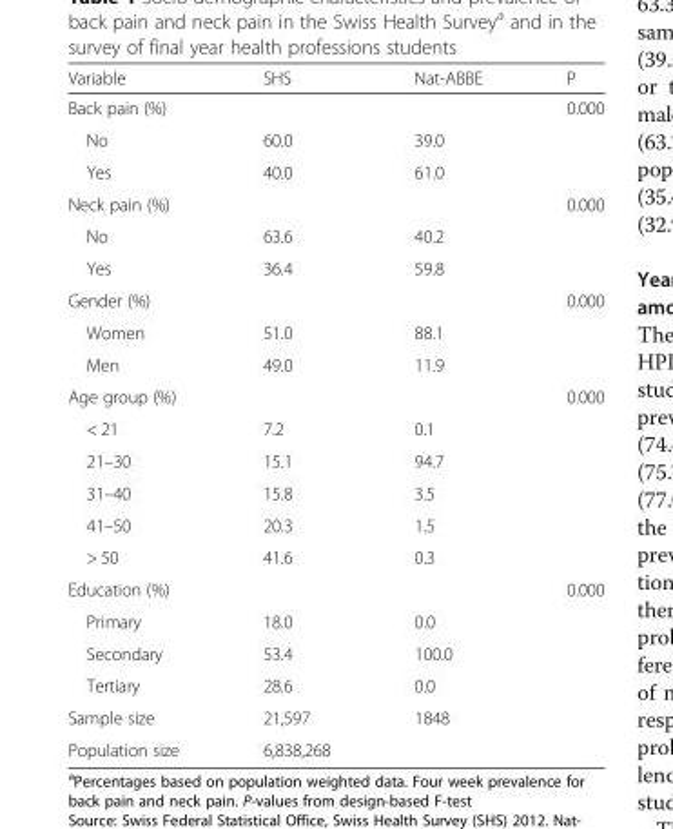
<table><thead><tr><td>Variable</td><td>SHS</td><td>Nat-ABBE</td><td>P</td></tr></thead><tbody><tr><td>Back pain (%)</td><td></td><td></td><td>0.000</td></tr><tr><td>No</td><td>60.0</td><td>39.0</td><td></td></tr><tr><td>Yes</td><td>40.0</td><td>61.0</td><td></td></tr><tr><td>Neck pain (%)</td><td></td><td></td><td>0.000</td></tr><tr><td>No</td><td>63.6</td><td>40.2</td><td></td></tr><tr><td>Yes</td><td>36.4</td><td>59.8</td><td></td></tr><tr><td>Gender (%)</td><td></td><td></td><td>0.000</td></tr><tr><td>Women</td><td>51.0</td><td>88.1</td><td></td></tr><tr><td>Men</td><td>49.0</td><td>11.9</td><td></td></tr><tr><td>Age group (%)</td><td></td><td></td><td>0.000</td></tr><tr><td>&lt; 21</td><td>7.2</td><td>0.1</td><td></td></tr><tr><td>21–30</td><td>15.1</td><td>94.7</td><td></td></tr><tr><td>31–40</td><td>15.8</td><td>3.5</td><td></td></tr><tr><td>41–50</td><td>20.3</td><td>1.5</td><td></td></tr><tr><td>&gt; 50</td><td>41.6</td><td>0.3</td><td></td></tr><tr><td>Education (%)</td><td></td><td></td><td>0.000</td></tr><tr><td>Primary</td><td>18.0</td><td>0.0</td><td></td></tr><tr><td>Secondary</td><td>53.4</td><td>100.0</td><td></td></tr><tr><td>Tertiary</td><td>28.6</td><td>0.0</td><td></td></tr><tr><td>Sample size</td><td>21,597</td><td>1848</td><td></td></tr><tr><td>Population size</td><td>6,838,268</td><td></td><td></td></tr></tbody></table>